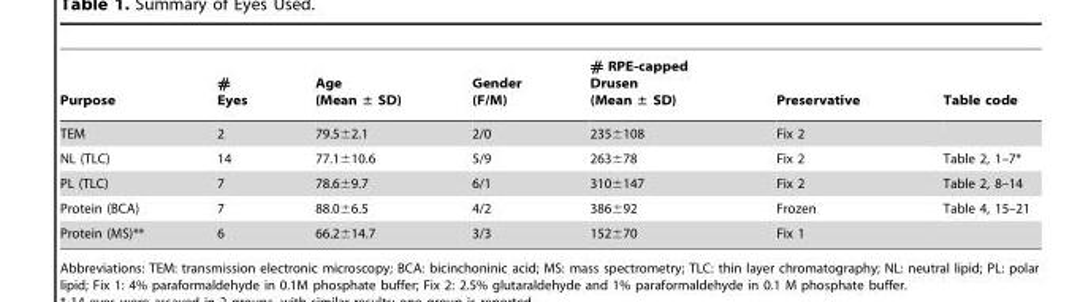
<table><thead><tr><td>Purpose</td><td># Eyes</td><td>Age (Mean ± SD)</td><td>Gender (F/M)</td><td># RPE-capped Drusen (Mean ± SD)</td><td>Preservative</td><td>Table code</td></tr></thead><tbody><tr><td>TEM</td><td>2</td><td>79.5±2.1</td><td>2/0</td><td>235±108</td><td>Fix 2</td><td></td></tr><tr><td>NL (TLC)</td><td>14</td><td>77.1±10.6</td><td>5/9</td><td>263±78</td><td>Fix 2</td><td>Table 2, 1–7*</td></tr><tr><td>PL (TLC)</td><td>7</td><td>78.6±9.7</td><td>6/1</td><td>310±147</td><td>Fix 2</td><td>Table 2, 8–14</td></tr><tr><td>Protein (BCA)</td><td>7</td><td>88.0±6.5</td><td>4/2</td><td>386±92</td><td>Frozen</td><td>Table 4, 15–21</td></tr><tr><td>Protein (MS)**</td><td>6</td><td>66.2±14.7</td><td>3/3</td><td>152±70</td><td>Fix 1</td><td></td></tr></tbody></table>